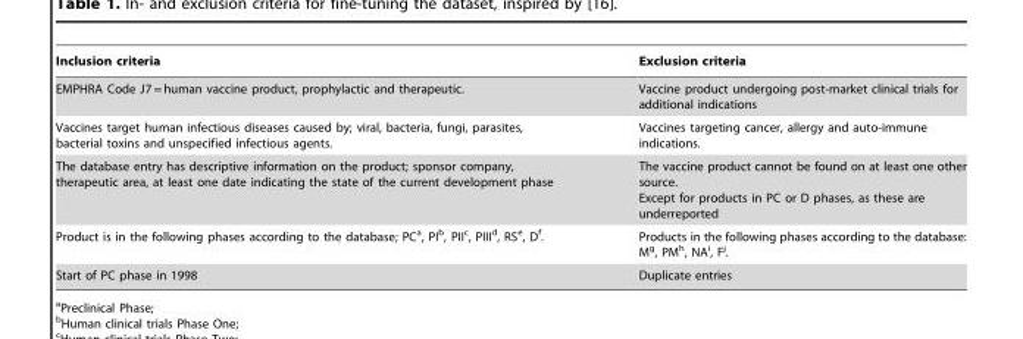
<table><thead><tr><td>Inclusion criteria</td><td>Exclusion criteria</td></tr></thead><tbody><tr><td>EMPHRA Code J7 = human vaccine product, prophylactic and therapeutic.</td><td>Vaccine product undergoing post-market clinical trials for additional indications</td></tr><tr><td>Vaccines target human infectious diseases caused by; viral, bacteria, fungi, parasites, bacterial toxins and unspecified infectious agents.</td><td>Vaccines targeting cancer, allergy and auto-immune indications.</td></tr><tr><td>The database entry has descriptive information on the product; sponsor company, therapeutic area, at least one date indicating the state of the current development phase</td><td>The vaccine product cannot be found on at least one other source. Except for products in PC or D phases, as these are underreported</td></tr><tr><td>Product is in the following phases according to the database; PC<sup>a</sup>, PI<sup>b</sup>, PII<sup>c</sup>, PIII<sup>d</sup>, RS<sup>e</sup>, D<sup>f</sup>.</td><td>Products in the following phases according to the database: M<sup>g</sup>, PM<sup>h</sup>, NA<sup>i</sup>, F<sup>j</sup>.</td></tr><tr><td>Start of PC phase in 1998</td><td>Duplicate entries</td></tr></tbody></table>